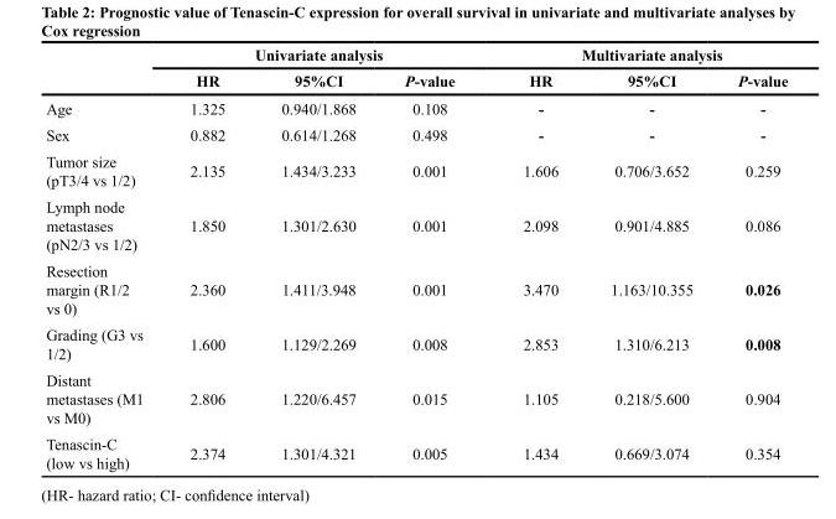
<table><thead><tr><td rowspan="2"></td><td colspan="3">Univariate analysis</td><td colspan="3">Multivariate analysis</td></tr><tr><td>HR</td><td>95%CI</td><td>P-value</td><td>HR</td><td>95%CI</td><td>P-value</td></tr></thead><tbody><tr><td>Age</td><td>1.325</td><td>0.940/1.868</td><td>0.108</td><td>-</td><td>-</td><td>-</td></tr><tr><td>Sex</td><td>0.882</td><td>0.614/1.268</td><td>0.498</td><td>-</td><td>-</td><td>-</td></tr><tr><td>Tumor size (pT3/4 vs 1/2)</td><td>2.135</td><td>1.434/3.233</td><td>0.001</td><td>1.606</td><td>0.706/3.652</td><td>0.259</td></tr><tr><td>Lymph node metastases (pN2/3 vs 1/2)</td><td>1.850</td><td>1.301/2.630</td><td>0.001</td><td>2.098</td><td>0.901/4.885</td><td>0.086</td></tr><tr><td>Resection margin (R1/2 vs 0)</td><td>2.360</td><td>1.411/3.948</td><td>0.001</td><td>3.470</td><td>1.163/10.355</td><td>0.026</td></tr><tr><td>Grading (G3 vs 1/2)</td><td>1.600</td><td>1.129/2.269</td><td>0.008</td><td>2.853</td><td>1.310/6.213</td><td>0.008</td></tr><tr><td>Distant metastases (M1 vs M0)</td><td>2.806</td><td>1.220/6.457</td><td>0.015</td><td>1.105</td><td>0.218/5.600</td><td>0.904</td></tr><tr><td>Tenascin-C (low vs high)</td><td>2.374</td><td>1.301/4.321</td><td>0.005</td><td>1.434</td><td>0.669/3.074</td><td>0.354</td></tr></tbody></table>